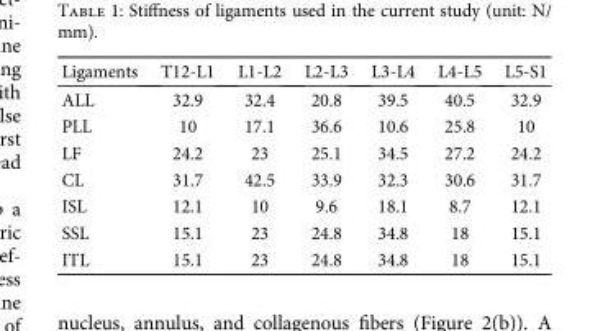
<table><thead><tr><td>Ligaments</td><td>T12-L1</td><td>L1-L2</td><td>L2-L3</td><td>L3-L4</td><td>L4-L5</td><td>L5-S1</td></tr></thead><tbody><tr><td>ALL</td><td>32.9</td><td>32.4</td><td>20.8</td><td>39.5</td><td>40.5</td><td>32.9</td></tr><tr><td>PLL</td><td>10</td><td>17.1</td><td>36.6</td><td>10.6</td><td>25.8</td><td>10</td></tr><tr><td>LF</td><td>24.2</td><td>23</td><td>25.1</td><td>34.5</td><td>27.2</td><td>24.2</td></tr><tr><td>CL</td><td>31.7</td><td>42.5</td><td>33.9</td><td>32.3</td><td>30.6</td><td>31.7</td></tr><tr><td>ISL</td><td>12.1</td><td>10</td><td>9.6</td><td>18.1</td><td>8.7</td><td>12.1</td></tr><tr><td>SSL</td><td>15.1</td><td>23</td><td>24.8</td><td>34.8</td><td>18</td><td>15.1</td></tr><tr><td>ITL</td><td>15.1</td><td>23</td><td>24.8</td><td>34.8</td><td>18</td><td>15.1</td></tr></tbody></table>